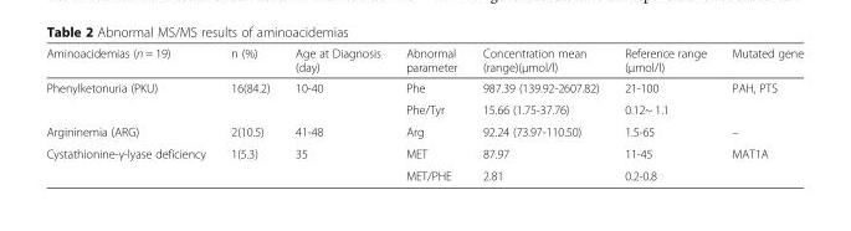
<table><thead><tr><td>Aminoacidemias (n = 19)</td><td>n (%)</td><td>Age at Diagnosis (day)</td><td>Abnormal parameter</td><td>Concentration mean (range)(μmol/l)</td><td>Reference range (μmol/l)</td><td>Mutated gene</td></tr></thead><tbody><tr><td rowspan="2">Phenylketonuria (PKU)</td><td rowspan="2">16(84.2)</td><td rowspan="2">10-40</td><td>Phe</td><td>987.39 (139.92-2607.82)</td><td>21-100</td><td rowspan="2">PAH, PTS</td></tr><tr><td>Phe/Tyr</td><td>15.66 (1.75-37.76)</td><td>0.12~ 1.1</td></tr><tr><td>Argininemia (ARG)</td><td>2(10.5)</td><td>41-48</td><td>Arg</td><td>92.24 (73.97-110.50)</td><td>1.5-65</td><td>–</td></tr><tr><td rowspan="2">Cystathionine-γ-lyase deficiency</td><td rowspan="2">1(5.3)</td><td rowspan="2">35</td><td>MET</td><td>87.97</td><td>11-45</td><td rowspan="2">MAT1A</td></tr><tr><td>MET/PHE</td><td>2.81</td><td>0.2-0.8</td></tr></tbody></table>